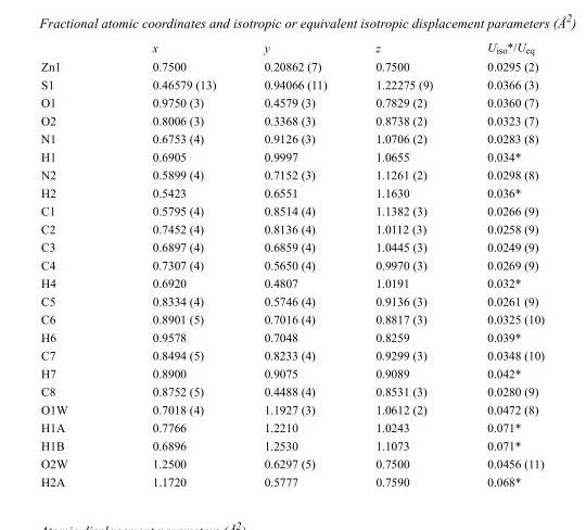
<table><thead><tr><td></td><td>x</td><td>y</td><td>z</td><td>U<sub>iso</sub>*/U<sub>eq</sub></td></tr></thead><tbody><tr><td>Zn1</td><td>0.7500</td><td>0.20862 (7)</td><td>0.7500</td><td>0.0295 (2)</td></tr><tr><td>S1</td><td>0.46579 (13)</td><td>0.94066 (11)</td><td>1.22275 (9)</td><td>0.0366 (3)</td></tr><tr><td>O1</td><td>0.9750 (3)</td><td>0.4579 (3)</td><td>0.7829 (2)</td><td>0.0360 (7)</td></tr><tr><td>O2</td><td>0.8006 (3)</td><td>0.3368 (3)</td><td>0.8738 (2)</td><td>0.0323 (7)</td></tr><tr><td>N1</td><td>0.6753 (4)</td><td>0.9126 (3)</td><td>1.0706 (2)</td><td>0.0283 (8)</td></tr><tr><td>H1</td><td>0.6905</td><td>0.9997</td><td>1.0655</td><td>0.034*</td></tr><tr><td>N2</td><td>0.5899 (4)</td><td>0.7152 (3)</td><td>1.1261 (2)</td><td>0.0298 (8)</td></tr><tr><td>H2</td><td>0.5423</td><td>0.6551</td><td>1.1630</td><td>0.036*</td></tr><tr><td>C1</td><td>0.5795 (4)</td><td>0.8514 (4)</td><td>1.1382 (3)</td><td>0.0266 (9)</td></tr><tr><td>C2</td><td>0.7452 (4)</td><td>0.8136 (4)</td><td>1.0112 (3)</td><td>0.0258 (9)</td></tr><tr><td>C3</td><td>0.6897 (4)</td><td>0.6859 (4)</td><td>1.0445 (3)</td><td>0.0249 (9)</td></tr><tr><td>C4</td><td>0.7307 (4)</td><td>0.5650 (4)</td><td>0.9970 (3)</td><td>0.0269 (9)</td></tr><tr><td>H4</td><td>0.6920</td><td>0.4807</td><td>1.0191</td><td>0.032*</td></tr><tr><td>C5</td><td>0.8334 (4)</td><td>0.5746 (4)</td><td>0.9136 (3)</td><td>0.0261 (9)</td></tr><tr><td>C6</td><td>0.8901 (5)</td><td>0.7016 (4)</td><td>0.8817 (3)</td><td>0.0325 (10)</td></tr><tr><td>H6</td><td>0.9578</td><td>0.7048</td><td>0.8259</td><td>0.039*</td></tr><tr><td>C7</td><td>0.8494 (5)</td><td>0.8233 (4)</td><td>0.9299 (3)</td><td>0.0348 (10)</td></tr><tr><td>H7</td><td>0.8900</td><td>0.9075</td><td>0.9089</td><td>0.042*</td></tr><tr><td>C8</td><td>0.8752 (5)</td><td>0.4488 (4)</td><td>0.8531 (3)</td><td>0.0280 (9)</td></tr><tr><td>O1W</td><td>0.7018 (4)</td><td>1.1927 (3)</td><td>1.0612 (2)</td><td>0.0472 (8)</td></tr><tr><td>H1A</td><td>0.7766</td><td>1.2210</td><td>1.0243</td><td>0.071*</td></tr><tr><td>H1B</td><td>0.6896</td><td>1.2530</td><td>1.1073</td><td>0.071*</td></tr><tr><td>O2W</td><td>1.2500</td><td>0.6297 (5)</td><td>0.7500</td><td>0.0456 (11)</td></tr><tr><td>H2A</td><td>1.1720</td><td>0.5777</td><td>0.7590</td><td>0.068*</td></tr></tbody></table>